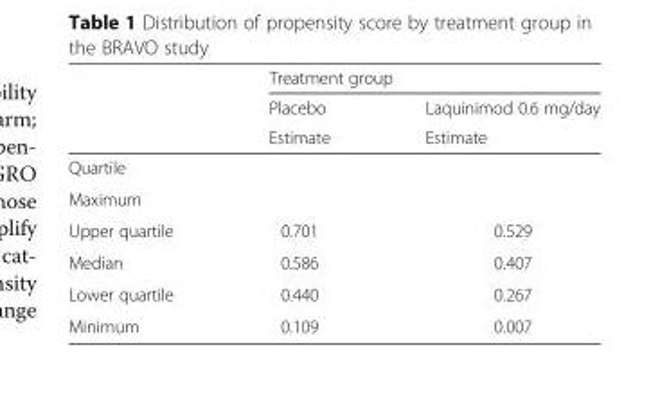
<table><thead><tr><td rowspan="3"></td><td colspan="2">Treatment group</td></tr><tr><td rowspan="2">Placebo Estimate</td><td rowspan="2">Laquinimod 0.6 mg/day Estimate</td></tr><tr></tr></thead><tbody><tr><td>Quartile</td><td rowspan="2"></td><td rowspan="2"></td></tr><tr><td>Maximum</td></tr><tr><td>Upper quartile</td><td>0.701</td><td>0.529</td></tr><tr><td>Median</td><td>0.586</td><td>0.407</td></tr><tr><td>Lower quartile</td><td>0.440</td><td>0.267</td></tr><tr><td>Minimum</td><td>0.109</td><td>0.007</td></tr></tbody></table>